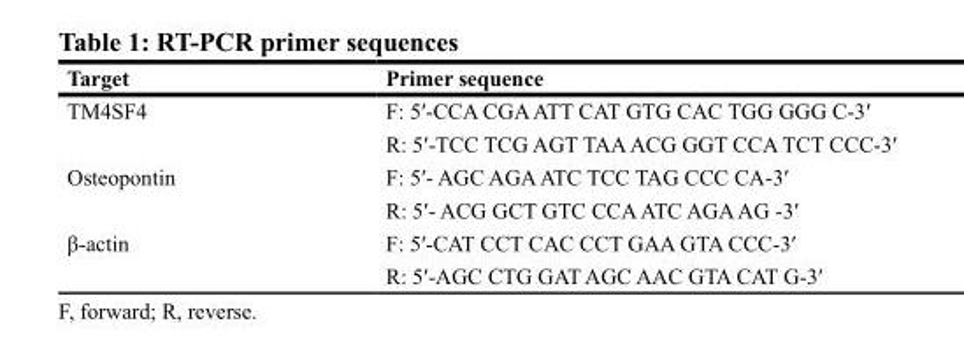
<table><thead><tr><td>Target</td><td>Primer sequence</td></tr></thead><tbody><tr><td rowspan="2">TM4SF4</td><td>F: 5′-CCA CGA ATT CAT GTG CAC TGG GGG C-3′</td></tr><tr><td>R: 5′-TCC TCG AGT TAA ACG GGT CCA TCT CCC-3′</td></tr><tr><td rowspan="2">Osteopontin</td><td>F: 5′- AGC AGA ATC TCC TAG CCC CA-3′</td></tr><tr><td>R: 5′- ACG GCT GTC CCA ATC AGA AG -3′</td></tr><tr><td rowspan="2">β-actin</td><td>F: 5′-CAT CCT CAC CCT GAA GTA CCC-3′</td></tr><tr><td>R: 5′-AGC CTG GAT AGC AAC GTA CAT G-3′</td></tr></tbody></table>